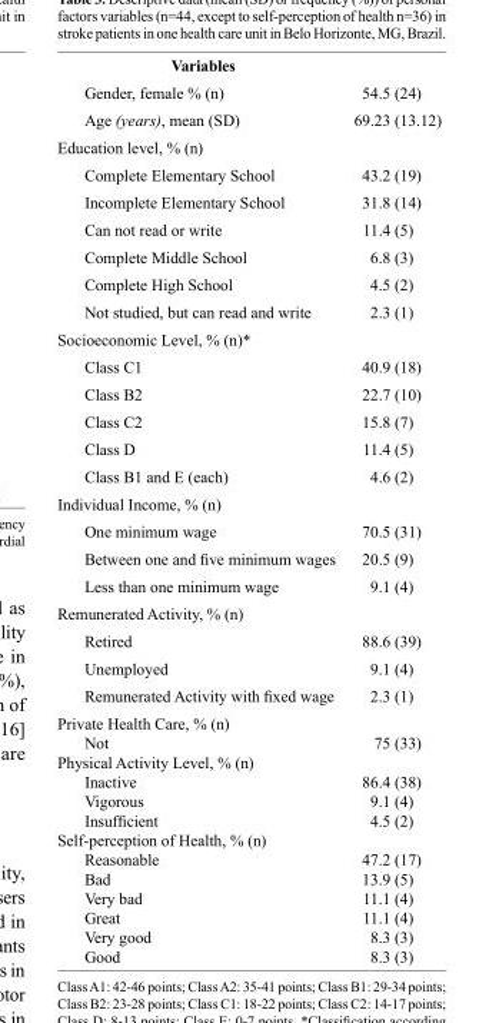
<table><thead><tr><td>Variables</td><td></td></tr></thead><tbody><tr><td>Gender, female % (n)</td><td>54.5 (24)</td></tr><tr><td>Age (years), mean (SD)</td><td>69.23 (13.12)</td></tr><tr><td colspan="2">Education level, % (n)</td></tr><tr><td>Complete Elementary School</td><td>43.2 (19)</td></tr><tr><td>Incomplete Elementary School</td><td>31.8 (14)</td></tr><tr><td>Can not read or write</td><td>11.4 (5)</td></tr><tr><td>Complete Middle School</td><td>6.8 (3)</td></tr><tr><td>Complete High School</td><td>4.5 (2)</td></tr><tr><td>Not studied, but can read and write</td><td>2.3 (1)</td></tr><tr><td colspan="2">Socioeconomic Level, % (n)*</td></tr><tr><td>Class C1</td><td>40.9 (18)</td></tr><tr><td>Class B2</td><td>22.7 (10)</td></tr><tr><td>Class C2</td><td>15.8 (7)</td></tr><tr><td>Class D</td><td>11.4 (5)</td></tr><tr><td>Class B1 and E (each)</td><td>4.6 (2)</td></tr><tr><td colspan="2">Individual Income, % (n)</td></tr><tr><td>One minimum wage</td><td>70.5 (31)</td></tr><tr><td>Between one and five minimum wages</td><td>20.5 (9)</td></tr><tr><td>Less than one minimum wage</td><td>9.1 (4)</td></tr><tr><td colspan="2">Remunerated Activity, % (n)</td></tr><tr><td>Retired</td><td>88.6 (39)</td></tr><tr><td>Unemployed</td><td>9.1 (4)</td></tr><tr><td>Remunerated Activity with fixed wage</td><td>2.3 (1)</td></tr><tr><td>Private Health Care, % (n) Not Physical Activity Level, % (n) Inactive Vigorous Insufficient Self-perception of Health, % (n) Reasonable Bad Very bad Great Very good Good</td><td>75 (33) 86.4 (38) 9.1 (4) 4.5 (2) 47.2 (17) 13.9 (5) 11.1 (4) 11.1 (4) 8.3 (3) 8.3 (3)</td></tr></tbody></table>